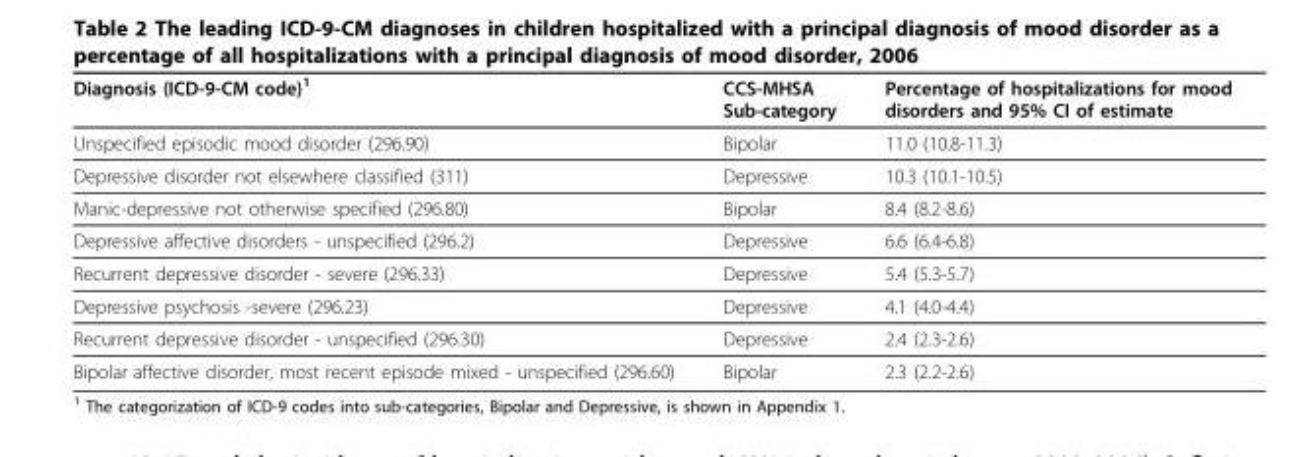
<table><thead><tr><td>Diagnosis (ICD-9-CM code)<sup>1</sup></td><td>CCS-MHSA Sub-category</td><td>Percentage of hospitalizations for mood disorders and 95% CI of estimate</td></tr></thead><tbody><tr><td>Unspecified episodic mood disorder (296.90)</td><td>Bipolar</td><td>11.0 (10.8-11.3)</td></tr><tr><td>Depressive disorder not elsewhere classified (311)</td><td>Depressive</td><td>10.3 (10.1-10.5)</td></tr><tr><td>Manic-depressive not otherwise specified (296.80)</td><td>Bipolar</td><td>8.4 (8.2-8.6)</td></tr><tr><td>Depressive affective disorders - unspecified (296.2)</td><td>Depressive</td><td>6.6 (6.4-6.8)</td></tr><tr><td>Recurrent depressive disorder - severe (296.33)</td><td>Depressive</td><td>5.4 (5.3-5.7)</td></tr><tr><td>Depressive psychosis -severe (296.23)</td><td>Depressive</td><td>4.1 (4.0-4.4)</td></tr><tr><td>Recurrent depressive disorder - unspecified (296.30)</td><td>Depressive</td><td>2.4 (2.3-2.6)</td></tr><tr><td>Bipolar affective disorder, most recent episode mixed - unspecified (296.60)</td><td>Bipolar</td><td>2.3 (2.2-2.6)</td></tr></tbody></table>